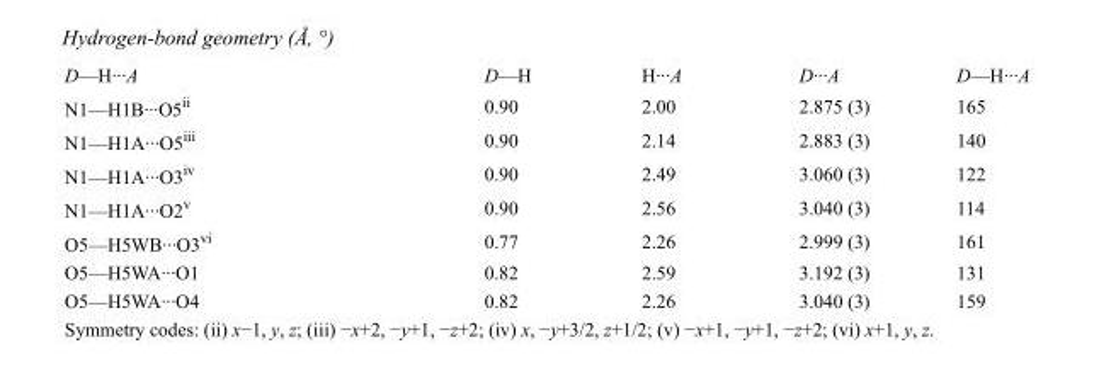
<table><tbody><tr><td>D—H···A</td><td>D—H</td><td>H···A</td><td>D···A</td><td>D—H···A</td></tr><tr><td>N1—H1B···O5<sup>ii</sup></td><td>0.90</td><td>2.00</td><td>2.875 (3)</td><td>165</td></tr><tr><td>N1—H1A···O5<sup>iii</sup></td><td>0.90</td><td>2.14</td><td>2.883 (3)</td><td>140</td></tr><tr><td>N1—H1A···O3<sup>iv</sup></td><td>0.90</td><td>2.49</td><td>3.060 (3)</td><td>122</td></tr><tr><td>N1—H1A···O2<sup>v</sup></td><td>0.90</td><td>2.56</td><td>3.040 (3)</td><td>114</td></tr><tr><td>O5—H5WB···O3<sup>vi</sup></td><td>0.77</td><td>2.26</td><td>2.999 (3)</td><td>161</td></tr><tr><td>O5—H5WA···O1</td><td>0.82</td><td>2.59</td><td>3.192 (3)</td><td>131</td></tr><tr><td>O5—H5WA···O4</td><td>0.82</td><td>2.26</td><td>3.040 (3)</td><td>159</td></tr></tbody></table>